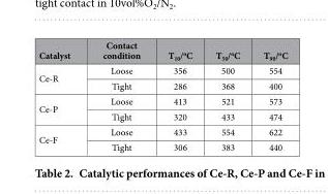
<table><thead><tr><td>Catalyst</td><td>Contact condition</td><td>T<sub>10</sub>/<sup>o</sup>C</td><td>T<sub>50</sub>/<sup>o</sup>C</td><td>T<sub>90</sub>/<sup>o</sup>C</td></tr></thead><tbody><tr><td rowspan="2">Ce-R</td><td>Loose</td><td>356</td><td>500</td><td>554</td></tr><tr><td>Tight</td><td>286</td><td>368</td><td>400</td></tr><tr><td rowspan="2">Ce-P</td><td>Loose</td><td>413</td><td>521</td><td>573</td></tr><tr><td>Tight</td><td>320</td><td>433</td><td>474</td></tr><tr><td rowspan="2">Ce-F</td><td>Loose</td><td>433</td><td>554</td><td>622</td></tr><tr><td>Tight</td><td>306</td><td>383</td><td>440</td></tr></tbody></table>